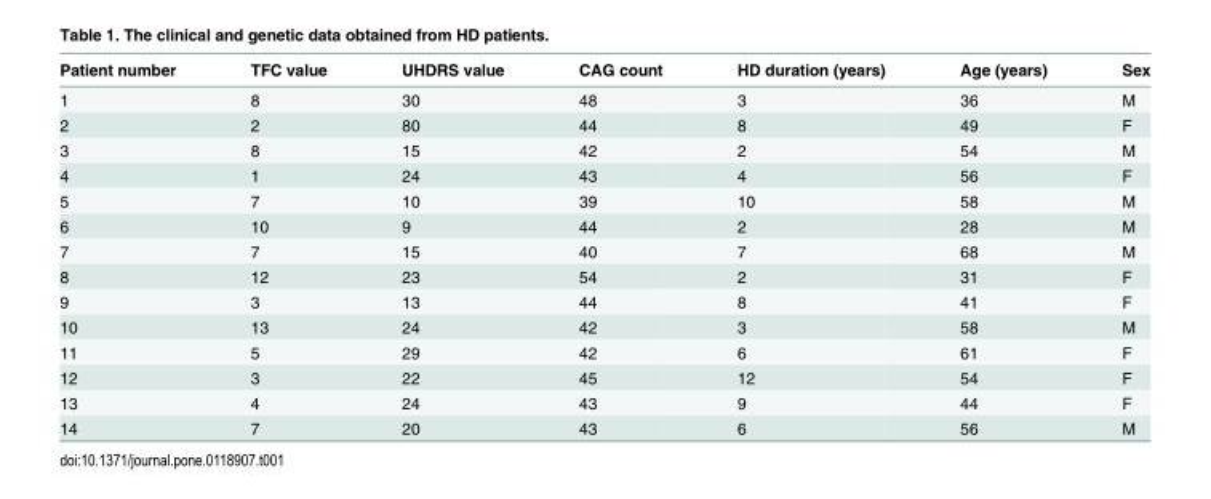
<table><thead><tr><td>Patient number</td><td>TFC value</td><td>UHDRS value</td><td>CAG count</td><td>HD duration (years)</td><td>Age (years)</td><td>Sex</td></tr></thead><tbody><tr><td>1</td><td>8</td><td>30</td><td>48</td><td>3</td><td>36</td><td>M</td></tr><tr><td>2</td><td>2</td><td>80</td><td>44</td><td>8</td><td>49</td><td>F</td></tr><tr><td>3</td><td>8</td><td>15</td><td>42</td><td>2</td><td>54</td><td>M</td></tr><tr><td>4</td><td>1</td><td>24</td><td>43</td><td>4</td><td>56</td><td>F</td></tr><tr><td>5</td><td>7</td><td>10</td><td>39</td><td>10</td><td>58</td><td>M</td></tr><tr><td>6</td><td>10</td><td>9</td><td>44</td><td>2</td><td>28</td><td>M</td></tr><tr><td>7</td><td>7</td><td>15</td><td>40</td><td>7</td><td>68</td><td>M</td></tr><tr><td>8</td><td>12</td><td>23</td><td>54</td><td>2</td><td>31</td><td>F</td></tr><tr><td>9</td><td>3</td><td>13</td><td>44</td><td>8</td><td>41</td><td>F</td></tr><tr><td>10</td><td>13</td><td>24</td><td>42</td><td>3</td><td>58</td><td>M</td></tr><tr><td>11</td><td>5</td><td>29</td><td>42</td><td>6</td><td>61</td><td>F</td></tr><tr><td>12</td><td>3</td><td>22</td><td>45</td><td>12</td><td>54</td><td>F</td></tr><tr><td>13</td><td>4</td><td>24</td><td>43</td><td>9</td><td>44</td><td>F</td></tr><tr><td>14</td><td>7</td><td>20</td><td>43</td><td>6</td><td>56</td><td>M</td></tr></tbody></table>